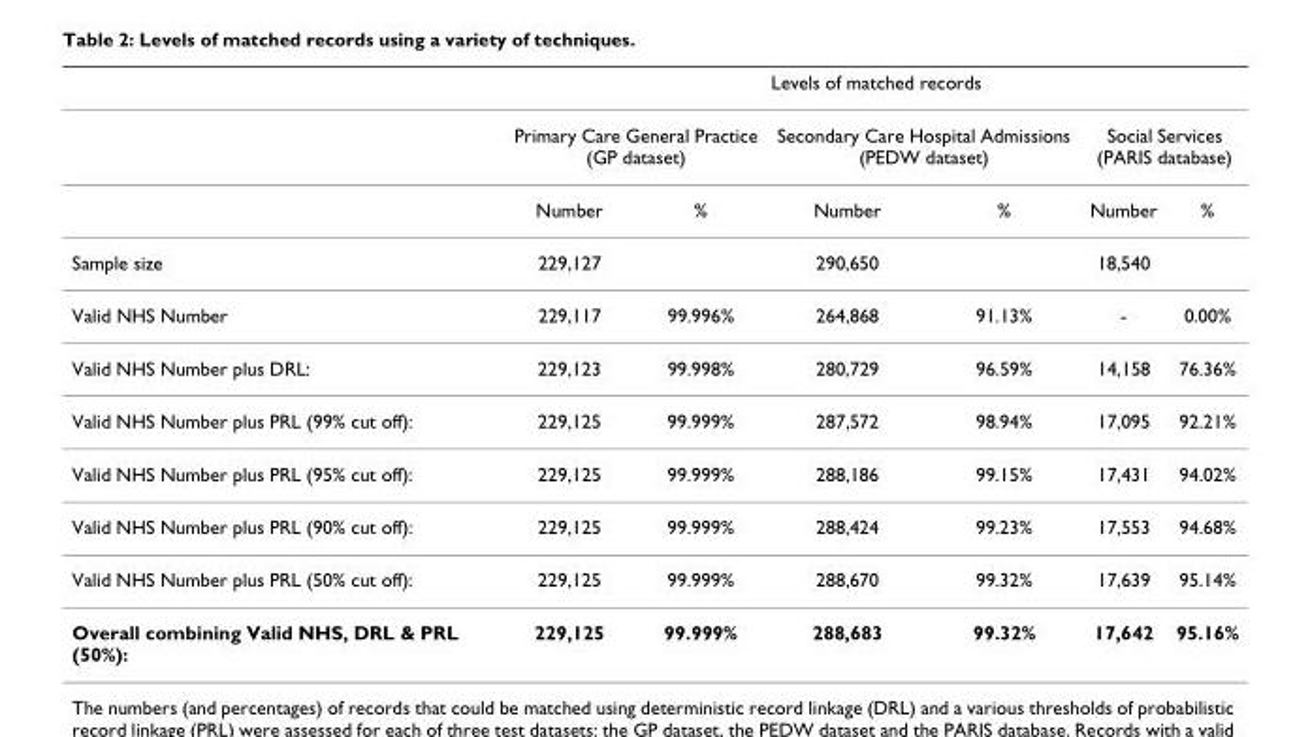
<table><thead><tr><td rowspan="3"></td><td colspan="6">Levels of matched records</td></tr><tr><td colspan="2">Primary Care General Practice (GP dataset)</td><td colspan="2">Secondary Care Hospital Admissions (PEDW dataset)</td><td colspan="2">Social Services (PARIS database)</td></tr><tr><td>Number</td><td>%</td><td>Number</td><td>%</td><td>Number</td><td>%</td></tr></thead><tbody><tr><td>Sample size</td><td>229,127</td><td></td><td>290,650</td><td></td><td>18,540</td><td></td></tr><tr><td>Valid NHS Number</td><td>229,117</td><td>99.996%</td><td>264,868</td><td>91.13%</td><td>-</td><td>0.00%</td></tr><tr><td>Valid NHS Number plus DRL:</td><td>229,123</td><td>99.998%</td><td>280,729</td><td>96.59%</td><td>14,158</td><td>76.36%</td></tr><tr><td>Valid NHS Number plus PRL (99% cut off):</td><td>229,125</td><td>99.999%</td><td>287,572</td><td>98.94%</td><td>17,095</td><td>92.21%</td></tr><tr><td>Valid NHS Number plus PRL (95% cut off):</td><td>229,125</td><td>99.999%</td><td>288,186</td><td>99.15%</td><td>17,431</td><td>94.02%</td></tr><tr><td>Valid NHS Number plus PRL (90% cut off):</td><td>229,125</td><td>99.999%</td><td>288,424</td><td>99.23%</td><td>17,553</td><td>94.68%</td></tr><tr><td>Valid NHS Number plus PRL (50% cut off):</td><td>229,125</td><td>99.999%</td><td>288,670</td><td>99.32%</td><td>17,639</td><td>95.14%</td></tr><tr><td>Overall combining Valid NHS, DRL &amp; PRL (50%):</td><td>229,125</td><td>99.999%</td><td>288,683</td><td>99.32%</td><td>17,642</td><td>95.16%</td></tr></tbody></table>